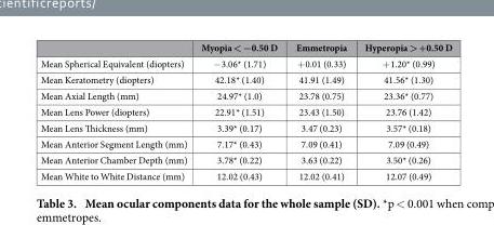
<table><thead><tr><td></td><td>Myopia &lt; −0.50 D</td><td>Emmetropia</td><td>Hyperopia &gt; +0.50 D</td></tr></thead><tbody><tr><td>Mean Spherical Equivalent (diopters)</td><td>− 3.06* (1.71)</td><td>+ 0.01 (0.33)</td><td>+ 1.20* (0.99)</td></tr><tr><td>Mean Keratometry (diopters)</td><td>42.18* (1.40)</td><td>41.91 (1.49)</td><td>41.56* (1.30)</td></tr><tr><td>Mean Axial Length (mm)</td><td>24.97* (1.0)</td><td>23.78 (0.75)</td><td>23.36* (0.77)</td></tr><tr><td>Mean Lens Power (diopters)</td><td>22.91* (1.51)</td><td>23.43 (1.50)</td><td>23.76 (1.42)</td></tr><tr><td>Mean Lens Thickness (mm)</td><td>3.39* (0.17)</td><td>3.47 (0.23)</td><td>3.57* (0.18)</td></tr><tr><td>Mean Anterior Segment Length (mm)</td><td>7.17* (0.43)</td><td>7.09 (0.41)</td><td>7.09 (0.49)</td></tr><tr><td>Mean Anterior Chamber Depth (mm)</td><td>3.78* (0.22)</td><td>3.63 (0.22)</td><td>3.50* (0.26)</td></tr><tr><td>Mean White to White Distance (mm)</td><td>12.02 (0.43)</td><td>12.02 (0.41)</td><td>12.07 (0.49)</td></tr></tbody></table>